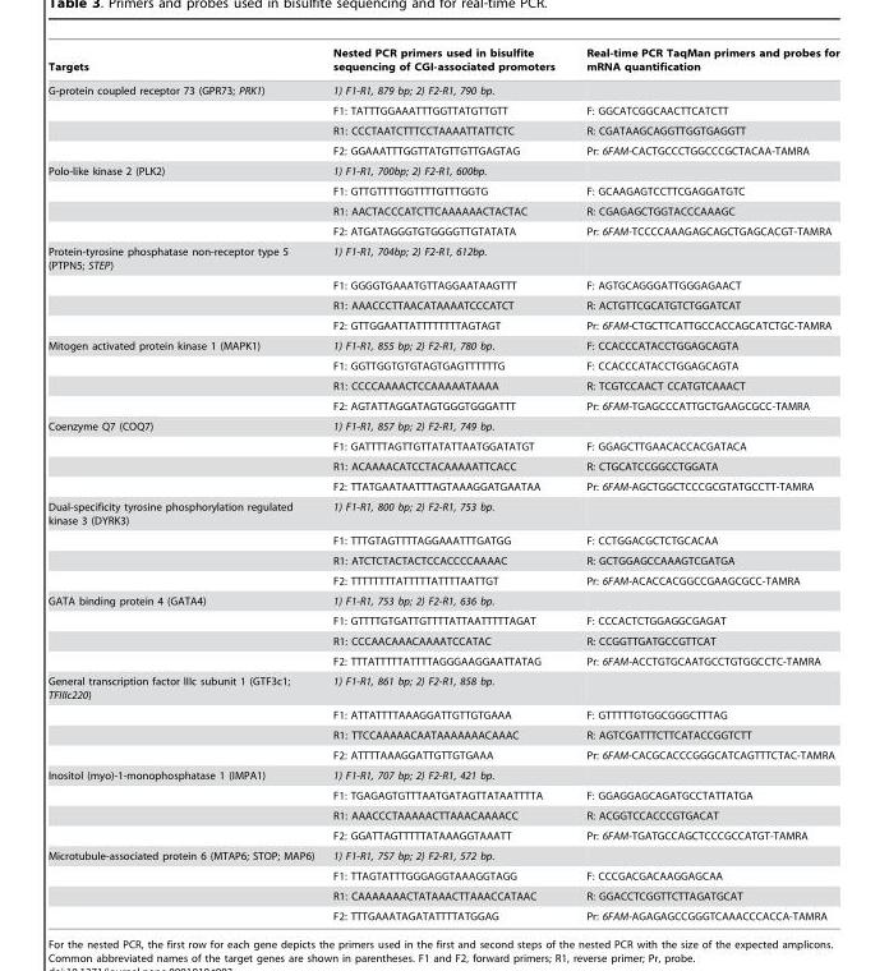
<table><thead><tr><td>Targets</td><td>Nested PCR primers used in bisulfite sequencing of CGI-associated promoters</td><td>Real-time PCR TaqMan primers and probes for mRNA quantification</td></tr></thead><tbody><tr><td rowspan="4">G-protein coupled receptor 73 (GPR73; PRK1)</td><td>1) F1-R1, 879 bp; 2) F2-R1, 790 bp.</td><td></td></tr><tr><td>F1: TATTTGGAAATTTGGTTATGTTGTT</td><td>F: GGCATCGGCAACTTCATCTT</td></tr><tr><td>R1: CCCTAATCTTTCCTAAAATTATTCTC</td><td>R: CGATAAGCAGGTTGGTGAGGTT</td></tr><tr><td>F2: GGAAATTTGGTTATGTTGTTGAGTAG</td><td>Pr: 6FAM-CACTGCCCTGGCCCGCTACAA-TAMRA</td></tr><tr><td rowspan="4">Polo-like kinase 2 (PLK2)</td><td>1) F1-R1, 700bp; 2) F2-R1, 600bp.</td><td></td></tr><tr><td>F1: GTTGTTTTGGTTTTGTTTGGTG</td><td>F: GCAAGAGTCCTTCGAGGATGTC</td></tr><tr><td>R1: AACTACCCATCTTCAAAAAACTACTAC</td><td>R: CGAGAGCTGGTACCCAAAGC</td></tr><tr><td>F2: ATGATAGGGTGTGGGGTTGTATATA</td><td>Pr: 6FAM-TCCCCAAAGAGCAGCTGAGCACGT-TAMRA</td></tr><tr><td rowspan="4">Protein-tyrosine phosphatase non-receptor type 5 (PTPN5; STEP)</td><td>1) F1-R1, 704bp; 2) F2-R1, 612bp.</td><td></td></tr><tr><td>F1: GGGGTGAAATGTTAGGAATAAGTTT</td><td>F: AGTGCAGGGATTGGGAGAACT</td></tr><tr><td>R1: AAACCCTTAACATAAAATCCCATCT</td><td>R: ACTGTTCGCATGTCTGGATCAT</td></tr><tr><td>F2: GTTGGAATTATTTTTTTTAGTAGT</td><td>Pr: 6FAM-CTGCTTCATTGCCACCAGCATCTGC-TAMRA</td></tr><tr><td rowspan="4">Mitogen activated protein kinase 1 (MAPK1)</td><td>1) F1-R1, 855 bp; 2) F2-R1, 780 bp.</td><td>F: CCACCCATACCTGGAGCAGTA</td></tr><tr><td>F1: GGTTGGTGTGTAGTGAGTTTTTTG</td><td>F: CCACCCATACCTGGAGCAGTA</td></tr><tr><td>R1: CCCCAAAACTCCAAAAATAAAA</td><td>R: TCGTCCAACT CCATGTCAAACT</td></tr><tr><td>F2: AGTATTAGGATAGTGGGTGGGATTT</td><td>Pr: 6FAM-TGAGCCCATTGCTGAAGCGCC-TAMRA</td></tr><tr><td rowspan="4">Coenzyme Q7 (COQ7)</td><td>1) F1-R1, 857 bp; 2) F2-R1, 749 bp.</td><td></td></tr><tr><td>F1: GATTTTAGTTGTTATATTAATGGATATGT</td><td>F: GGAGCTTGAACACCACGATACA</td></tr><tr><td>R1: ACAAAACATCCTACAAAAATTCACC</td><td>R: CTGCATCCGGCCTGGATA</td></tr><tr><td>F2: TTATGAATAATTTAGTAAAGGATGAATAA</td><td>Pr: 6FAM-AGCTGGCTCCCGCGTATGCCTT-TAMRA</td></tr><tr><td rowspan="4">Dual-specificity tyrosine phosphorylation regulated kinase 3 (DYRK3)</td><td>1) F1-R1, 800 bp; 2) F2-R1, 753 bp.</td><td></td></tr><tr><td>F1: TTTGTAGTTTTAGGAAATTTGATGG</td><td>F: CCTGGACGCTCTGCACAA</td></tr><tr><td>R1: ATCTCTACTACTCCACCCCAAAAC</td><td>R: GCTGGAGCCAAAGTCGATGA</td></tr><tr><td>F2: TTTTTTTTATTTTTATTTTAATTGT</td><td>Pr: 6FAM-ACACCACGGCCGAAGCGCC-TAMRA</td></tr><tr><td rowspan="4">GATA binding protein 4 (GATA4)</td><td>1) F1-R1, 753 bp; 2) F2-R1, 636 bp.</td><td></td></tr><tr><td>F1: GTTTTGTGATTGTTTTATTAATTTTTAGAT</td><td>F: CCCACTCTGGAGGCGAGAT</td></tr><tr><td>R1: CCCAACAAACAAAATCCATAC</td><td>R: CCGGTTGATGCCGTTCAT</td></tr><tr><td>F2: TTTATTTTTATTTTAGGGAAGGAATTATAG</td><td>Pr: 6FAM-ACCTGTGCAATGCCTGTGGCCTC-TAMRA</td></tr><tr><td rowspan="4">General transcription factor IIIc subunit 1 (GTF3c1; TFIIIc220)</td><td>1) F1-R1, 861 bp; 2) F2-R1, 858 bp.</td><td></td></tr><tr><td>F1: ATTATTTTAAAGGATTGTTGTGAAA</td><td>F: GTTTTTGTGGCGGGCTTTAG</td></tr><tr><td>R1: TTCCAAAAACAATAAAAAAACAAAC</td><td>R: AGTCGATTTCTTCATACCGGTCTT</td></tr><tr><td>F2: ATTTTAAAGGATTGTTGTGAAA</td><td>Pr: 6FAM-CACGCACCCGGGCATCAGTTTCTAC-TAMRA</td></tr><tr><td rowspan="4">Inositol (myo)-1-monophosphatase 1 (IMPA1)</td><td>1) F1-R1, 707 bp; 2) F2-R1, 421 bp.</td><td></td></tr><tr><td>F1: TGAGAGTGTTTAATGATAGTTATAATTTTA</td><td>F: GGAGGAGCAGATGCCTATTATGA</td></tr><tr><td>R1: AAACCCTAAAAACTTAAACAAAACC</td><td>R: ACGGTCCACCCGTGACAT</td></tr><tr><td>F2: GGATTAGTTTTTATAAAGGTAAATT</td><td>Pr: 6FAM-TGATGCCAGCTCCCGCCATGT-TAMRA</td></tr><tr><td rowspan="4">Microtubule-associated protein 6 (MTAP6; STOP; MAP6)</td><td>1) F1-R1, 757 bp; 2) F2-R1, 572 bp.</td><td></td></tr><tr><td>F1: TTAGTATTTGGGAGGTAAAGGTAGG</td><td>F: CCCGACGACAAGGAGCAA</td></tr><tr><td>R1: CAAAAAAACTATAAACTTAAACCATAAC</td><td>R: GGACCTCGGTTCTTAGATGCAT</td></tr><tr><td>F2: TTTGAAATAGATATTTTATGGAG</td><td>Pr: 6FAM-AGAGAGCCGGGTCAAACCCACCA-TAMRA</td></tr></tbody></table>